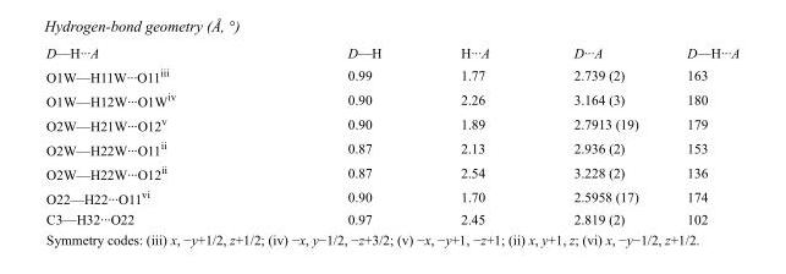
<table><tbody><tr><td>D—H···A</td><td>D—H</td><td>H···A</td><td>D···A</td><td>D—H···A</td></tr><tr><td>O1W—H11W···O11<sup>iii</sup></td><td>0.99</td><td>1.77</td><td>2.739 (2)</td><td>163</td></tr><tr><td>O1W—H12W···O1W<sup>iv</sup></td><td>0.90</td><td>2.26</td><td>3.164 (3)</td><td>180</td></tr><tr><td>O2W—H21W···O12<sup>v</sup></td><td>0.90</td><td>1.89</td><td>2.7913 (19)</td><td>179</td></tr><tr><td>O2W—H22W···O11<sup>ii</sup></td><td>0.87</td><td>2.13</td><td>2.936 (2)</td><td>153</td></tr><tr><td>O2W—H22W···O12<sup>ii</sup></td><td>0.87</td><td>2.54</td><td>3.228 (2)</td><td>136</td></tr><tr><td>O22—H22···O11<sup>vi</sup></td><td>0.90</td><td>1.70</td><td>2.5958 (17)</td><td>174</td></tr><tr><td>C3—H32···O22</td><td>0.97</td><td>2.45</td><td>2.819 (2)</td><td>102</td></tr></tbody></table>